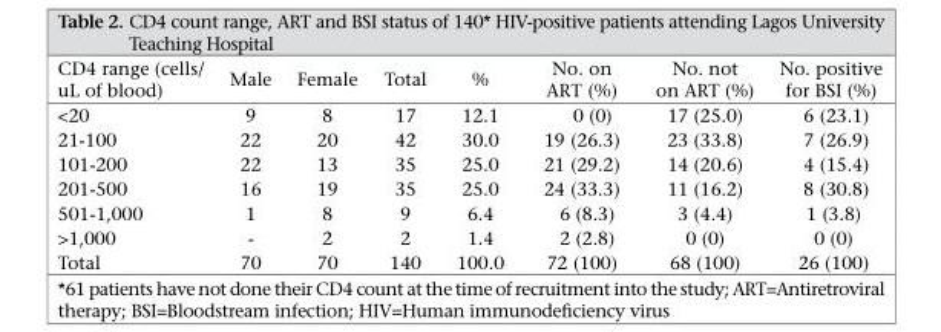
<table><thead><tr><td>CD4 range (cells/ uL of blood)</td><td>Male</td><td>Female</td><td>Total</td><td>%</td><td>No. on ART (%)</td><td>No. not on ART (%)</td><td>No. positive for BSI (%)</td></tr></thead><tbody><tr><td>&lt;20</td><td>9</td><td>8</td><td>17</td><td>12.1</td><td>0 (0)</td><td>17 (25.0)</td><td>6 (23.1)</td></tr><tr><td>21-100</td><td>22</td><td>20</td><td>42</td><td>30.0</td><td>19 (26.3)</td><td>23 (33.8)</td><td>7 (26.9)</td></tr><tr><td>101-200</td><td>22</td><td>13</td><td>35</td><td>25.0</td><td>21 (29.2)</td><td>14 (20.6)</td><td>4 (15.4)</td></tr><tr><td>201-500</td><td>16</td><td>19</td><td>35</td><td>25.0</td><td>24 (33.3)</td><td>11 (16.2)</td><td>8 (30.8)</td></tr><tr><td>501-1,000</td><td>1</td><td>8</td><td>9</td><td>6.4</td><td>6 (8.3)</td><td>3 (4.4)</td><td>1 (3.8)</td></tr><tr><td>&gt;1,000</td><td>-</td><td>2</td><td>2</td><td>1.4</td><td>2 (2.8)</td><td>0 (0)</td><td>0 (0)</td></tr><tr><td>Total</td><td>70</td><td>70</td><td>140</td><td>100.0</td><td>72 (100)</td><td>68 (100)</td><td>26 (100)</td></tr></tbody></table>